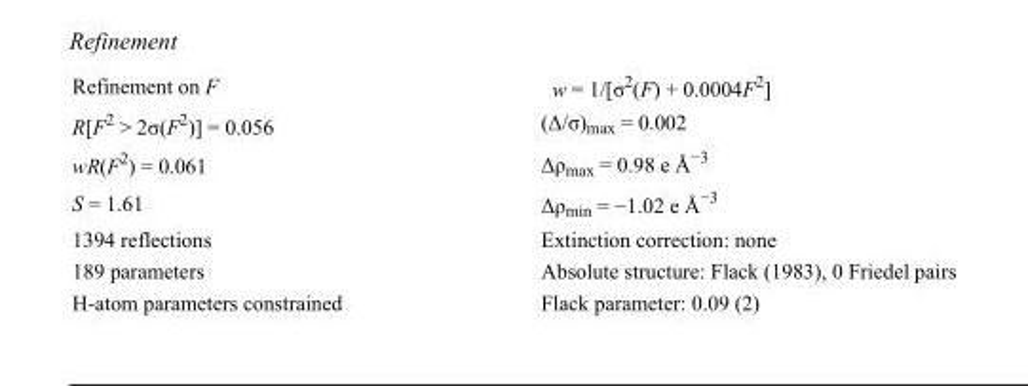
<table><tbody><tr><td>Refinement on F</td><td>w = 1/[σ<sup>2</sup>(F) + 0.0004F<sup>2</sup>]</td></tr><tr><td>R[F<sup>2</sup> &gt; 2σ(F<sup>2</sup>)] = 0.056</td><td>(Δ/σ)<sub>max</sub> = 0.002</td></tr><tr><td>wR(F<sup>2</sup>) = 0.061</td><td>Δρ<sub>max</sub> = 0.98 e Å<sup>−3</sup></td></tr><tr><td>S = 1.61</td><td>Δρ<sub>min</sub> = −1.02 e Å<sup>−3</sup></td></tr><tr><td>1394 reflections</td><td>Extinction correction: none</td></tr><tr><td>189 parameters</td><td>Absolute structure: Flack (1983), 0 Friedel pairs</td></tr><tr><td>H-atom parameters constrained</td><td>Flack parameter: 0.09 (2)</td></tr></tbody></table>